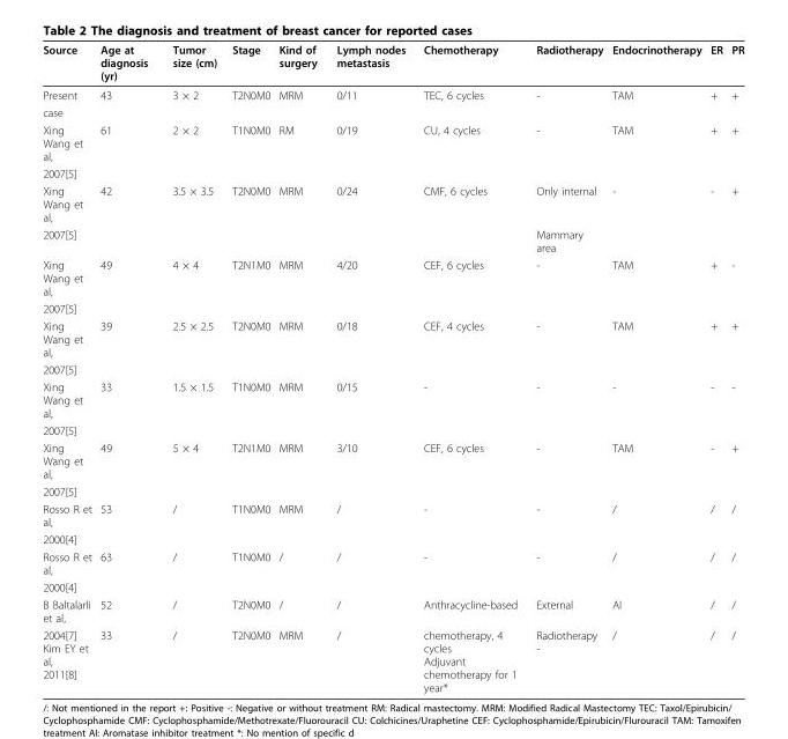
<table><thead><tr><td>Source</td><td>Age at diagnosis (yr)</td><td>Tumor size (cm)</td><td>Stage</td><td>Kind of surgery</td><td>Lymph nodes metastasis</td><td>Chemotherapy</td><td>Radiotherapy</td><td>Endocrinotherapy</td><td>ER</td><td>PR</td></tr></thead><tbody><tr><td>Present</td><td>43</td><td>3 × 2</td><td>T2N0M0</td><td>MRM</td><td>0/11</td><td>TEC, 6 cycles</td><td>-</td><td>TAM</td><td>+</td><td>+</td></tr><tr><td colspan="11">case</td></tr><tr><td>Xing Wang et al,</td><td>61</td><td>2 × 2</td><td>T1N0M0</td><td>RM</td><td>0/19</td><td>CU, 4 cycles</td><td>-</td><td>TAM</td><td>+</td><td>+</td></tr><tr><td colspan="11">2007[5]</td></tr><tr><td>Xing Wang et al,</td><td>42</td><td>3.5 × 3.5</td><td>T2N0M0</td><td>MRM</td><td>0/24</td><td>CMF, 6 cycles</td><td>Only internal</td><td>-</td><td>-</td><td>+</td></tr><tr><td>2007[5]</td><td></td><td></td><td></td><td></td><td></td><td></td><td>Mammary area</td><td></td><td></td><td></td></tr><tr><td>Xing Wang et al,</td><td>49</td><td>4 × 4</td><td>T2N1M0</td><td>MRM</td><td>4/20</td><td>CEF, 6 cycles</td><td>-</td><td>TAM</td><td>+</td><td>-</td></tr><tr><td colspan="11">2007[5]</td></tr><tr><td>Xing Wang et al,</td><td>39</td><td>2.5 × 2.5</td><td>T2N0M0</td><td>MRM</td><td>0/18</td><td>CEF, 4 cycles</td><td>-</td><td>TAM</td><td>+</td><td>+</td></tr><tr><td colspan="11">2007[5]</td></tr><tr><td>Xing Wang et al,</td><td>33</td><td>1.5 × 1.5</td><td>T1N0M0</td><td>MRM</td><td>0/15</td><td>-</td><td>-</td><td>-</td><td>-</td><td>-</td></tr><tr><td colspan="11">2007[5]</td></tr><tr><td>Xing Wang et al,</td><td>49</td><td>5 × 4</td><td>T2N1M0</td><td>MRM</td><td>3/10</td><td>CEF, 6 cycles</td><td>-</td><td>TAM</td><td>-</td><td>+</td></tr><tr><td colspan="11">2007[5]</td></tr><tr><td>Rosso R et al,</td><td>53</td><td>/</td><td>T1N0M0</td><td>MRM</td><td>/</td><td>-</td><td>-</td><td>/</td><td>/</td><td>/</td></tr><tr><td colspan="11">2000[4]</td></tr><tr><td>Rosso R et al,</td><td>63</td><td>/</td><td>T1N0M0</td><td>/</td><td>/</td><td>-</td><td>-</td><td>/</td><td>/</td><td>/</td></tr><tr><td colspan="11">2000[4]</td></tr><tr><td>B Baltalarli et al,</td><td>52</td><td>/</td><td>T2N0M0</td><td>/</td><td>/</td><td>Anthracycline-based</td><td>External</td><td>AI</td><td>/</td><td>/</td></tr><tr><td>2004[7] Kim EY et al, 2011[8]</td><td>33</td><td>/</td><td>T2N0M0</td><td>MRM</td><td>/</td><td>chemotherapy, 4 cycles Adjuvant chemotherapy for 1 year*</td><td>Radiotherapy -</td><td>/</td><td>/</td><td>/</td></tr></tbody></table>